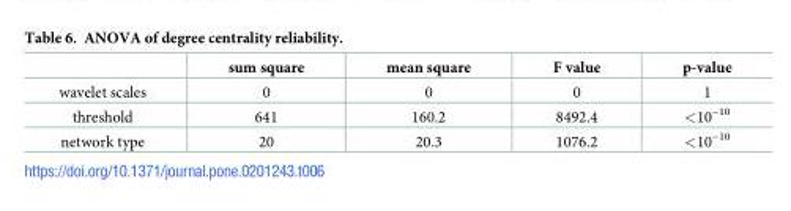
<table><thead><tr><td></td><td>sum square</td><td>mean square</td><td>F value</td><td>p-value</td></tr></thead><tbody><tr><td>wavelet scales</td><td>0</td><td>0</td><td>0</td><td>1</td></tr><tr><td>threshold</td><td>641</td><td>160.2</td><td>8492.4</td><td>&lt;10<sup>−10</sup></td></tr><tr><td>network type</td><td>20</td><td>20.3</td><td>1076.2</td><td>&lt;10<sup>−10</sup></td></tr></tbody></table>